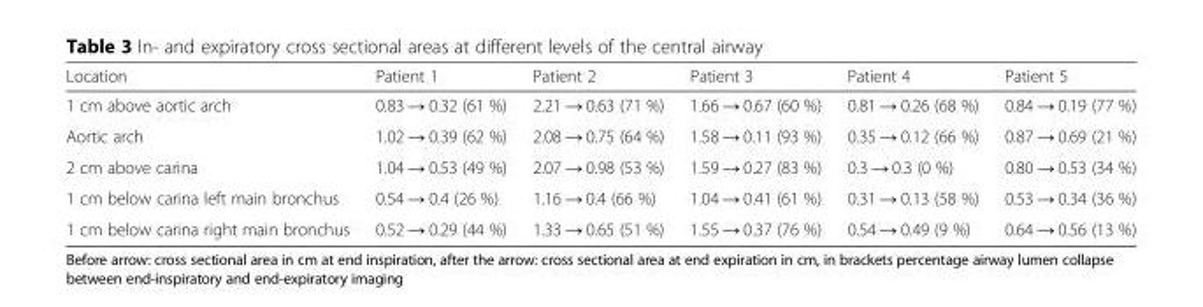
<table><thead><tr><td>Location</td><td>Patient 1</td><td>Patient 2</td><td>Patient 3</td><td>Patient 4</td><td>Patient 5</td></tr></thead><tbody><tr><td>1 cm above aortic arch</td><td>0.83 → 0.32 (61 %)</td><td>2.21 → 0.63 (71 %)</td><td>1.66 → 0.67 (60 %)</td><td>0.81 → 0.26 (68 %)</td><td>0.84 → 0.19 (77 %)</td></tr><tr><td>Aortic arch</td><td>1.02 → 0.39 (62 %)</td><td>2.08 → 0.75 (64 %)</td><td>1.58 → 0.11 (93 %)</td><td>0.35 → 0.12 (66 %)</td><td>0.87 → 0.69 (21 %)</td></tr><tr><td>2 cm above carina</td><td>1.04 → 0.53 (49 %)</td><td>2.07 → 0.98 (53 %)</td><td>1.59 → 0.27 (83 %)</td><td>0.3 → 0.3 (0 %)</td><td>0.80 → 0.53 (34 %)</td></tr><tr><td>1 cm below carina left main bronchus</td><td>0.54 → 0.4 (26 %)</td><td>1.16 → 0.4 (66 %)</td><td>1.04 → 0.41 (61 %)</td><td>0.31 → 0.13 (58 %)</td><td>0.53 → 0.34 (36 %)</td></tr><tr><td>1 cm below carina right main bronchus</td><td>0.52 → 0.29 (44 %)</td><td>1.33 → 0.65 (51 %)</td><td>1.55 → 0.37 (76 %)</td><td>0.54 → 0.49 (9 %)</td><td>0.64 → 0.56 (13 %)</td></tr></tbody></table>